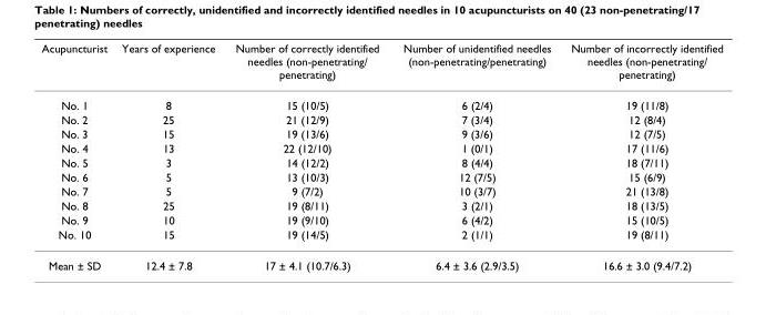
<table><thead><tr><td>Acupuncturist</td><td>Years of experience</td><td>Number of correctly identified needles (non-penetrating/ penetrating)</td><td>Number of unidentified needles (non-penetrating/penetrating)</td><td>Number of incorrectly identified needles (non-penetrating/ penetrating)</td></tr></thead><tbody><tr><td>No. 1</td><td>8</td><td>15 (10/5)</td><td>6 (2/4)</td><td>19 (11/8)</td></tr><tr><td>No. 2</td><td>25</td><td>21 (12/9)</td><td>7 (3/4)</td><td>12 (8/4)</td></tr><tr><td>No. 3</td><td>15</td><td>19 (13/6)</td><td>9 (3/6)</td><td>12 (7/5)</td></tr><tr><td>No. 4</td><td>13</td><td>22 (12/10)</td><td>1 (0/1)</td><td>17 (11/6)</td></tr><tr><td>No. 5</td><td>3</td><td>14 (12/2)</td><td>8 (4/4)</td><td>18 (7/11)</td></tr><tr><td>No. 6</td><td>5</td><td>13 (10/3)</td><td>12 (7/5)</td><td>15 (6/9)</td></tr><tr><td>No. 7</td><td>5</td><td>9 (7/2)</td><td>10 (3/7)</td><td>21 (13/8)</td></tr><tr><td>No. 8</td><td>25</td><td>19 (8/11)</td><td>3 (2/1)</td><td>18 (13/5)</td></tr><tr><td>No. 9</td><td>10</td><td>19 (9/10)</td><td>6 (4/2)</td><td>15 (10/5)</td></tr><tr><td>No. 10</td><td>15</td><td>19 (14/5)</td><td>2 (1/1)</td><td>19 (8/11)</td></tr><tr><td>Mean ± SD</td><td>12.4 ± 7.8</td><td>17 ± 4.1 (10.7/6.3)</td><td>6.4 ± 3.6 (2.9/3.5)</td><td>16.6 ± 3.0 (9.4/7.2)</td></tr></tbody></table>